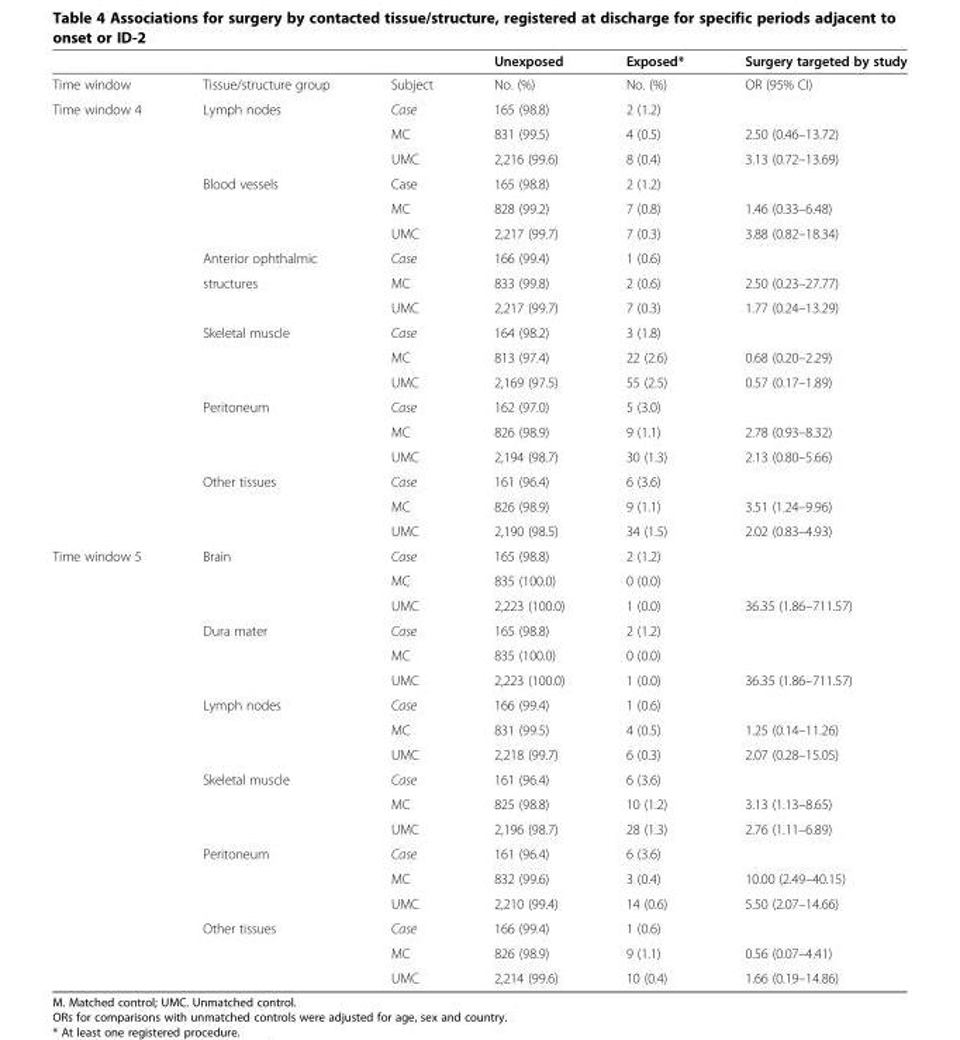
<table><thead><tr><td></td><td></td><td></td><td>Unexposed</td><td>Exposed*</td><td>Surgery targeted by study</td></tr></thead><tbody><tr><td>Time window</td><td>Tissue/structure group</td><td>Subject</td><td>No. (%)</td><td>No. (%)</td><td>OR (95% CI)</td></tr><tr><td rowspan="18">Time window 4</td><td>Lymph nodes</td><td>Case</td><td>165 (98.8)</td><td>2 (1.2)</td><td></td></tr><tr><td></td><td>MC</td><td>831 (99.5)</td><td>4 (0.5)</td><td>2.50 (0.46–13.72)</td></tr><tr><td></td><td>UMC</td><td>2,216 (99.6)</td><td>8 (0.4)</td><td>3.13 (0.72–13.69)</td></tr><tr><td>Blood vessels</td><td>Case</td><td>165 (98.8)</td><td>2 (1.2)</td><td></td></tr><tr><td></td><td>MC</td><td>828 (99.2)</td><td>7 (0.8)</td><td>1.46 (0.33–6.48)</td></tr><tr><td></td><td>UMC</td><td>2,217 (99.7)</td><td>7 (0.3)</td><td>3.88 (0.82–18.34)</td></tr><tr><td>Anterior ophthalmic</td><td>Case</td><td>166 (99.4)</td><td>1 (0.6)</td><td></td></tr><tr><td>structures</td><td>MC</td><td>833 (99.8)</td><td>2 (0.6)</td><td>2.50 (0.23–27.77)</td></tr><tr><td></td><td>UMC</td><td>2,217 (99.7)</td><td>7 (0.3)</td><td>1.77 (0.24–13.29)</td></tr><tr><td>Skeletal muscle</td><td>Case</td><td>164 (98.2)</td><td>3 (1.8)</td><td></td></tr><tr><td></td><td>MC</td><td>813 (97.4)</td><td>22 (2.6)</td><td>0.68 (0.20–2.29)</td></tr><tr><td></td><td>UMC</td><td>2,169 (97.5)</td><td>55 (2.5)</td><td>0.57 (0.17–1.89)</td></tr><tr><td>Peritoneum</td><td>Case</td><td>162 (97.0)</td><td>5 (3.0)</td><td></td></tr><tr><td></td><td>MC</td><td>826 (98.9)</td><td>9 (1.1)</td><td>2.78 (0.93–8.32)</td></tr><tr><td></td><td>UMC</td><td>2,194 (98.7)</td><td>30 (1.3)</td><td>2.13 (0.80–5.66)</td></tr><tr><td>Other tissues</td><td>Case</td><td>161 (96.4)</td><td>6 (3.6)</td><td></td></tr><tr><td></td><td>MC</td><td>826 (98.9)</td><td>9 (1.1)</td><td>3.51 (1.24–9.96)</td></tr><tr><td></td><td>UMC</td><td>2,190 (98.5)</td><td>34 (1.5)</td><td>2.02 (0.83–4.93)</td></tr><tr><td rowspan="18">Time window 5</td><td>Brain</td><td>Case</td><td>165 (98.8)</td><td>2 (1.2)</td><td></td></tr><tr><td></td><td>MC</td><td>835 (100.0)</td><td>0 (0.0)</td><td></td></tr><tr><td></td><td>UMC</td><td>2,223 (100.0)</td><td>1 (0.0)</td><td>36.35 (1.86–711.57)</td></tr><tr><td>Dura mater</td><td>Case</td><td>165 (98.8)</td><td>2 (1.2)</td><td></td></tr><tr><td></td><td>MC</td><td>835 (100.0)</td><td>0 (0.0)</td><td></td></tr><tr><td></td><td>UMC</td><td>2,223 (100.0)</td><td>1 (0.0)</td><td>36.35 (1.86–711.57)</td></tr><tr><td>Lymph nodes</td><td>Case</td><td>166 (99.4)</td><td>1 (0.6)</td><td></td></tr><tr><td></td><td>MC</td><td>831 (99.5)</td><td>4 (0.5)</td><td>1.25 (0.14–11.26)</td></tr><tr><td></td><td>UMC</td><td>2,218 (99.7)</td><td>6 (0.3)</td><td>2.07 (0.28–15.05)</td></tr><tr><td>Skeletal muscle</td><td>Case</td><td>161 (96.4)</td><td>6 (3.6)</td><td></td></tr><tr><td></td><td>MC</td><td>825 (98.8)</td><td>10 (1.2)</td><td>3.13 (1.13–8.65)</td></tr><tr><td></td><td>UMC</td><td>2,196 (98.7)</td><td>28 (1.3)</td><td>2.76 (1.11–6.89)</td></tr><tr><td>Peritoneum</td><td>Case</td><td>161 (96.4)</td><td>6 (3.6)</td><td></td></tr><tr><td></td><td>MC</td><td>832 (99.6)</td><td>3 (0.4)</td><td>10.00 (2.49–40.15)</td></tr><tr><td></td><td>UMC</td><td>2,210 (99.4)</td><td>14 (0.6)</td><td>5.50 (2.07–14.66)</td></tr><tr><td>Other tissues</td><td>Case</td><td>166 (99.4)</td><td>1 (0.6)</td><td></td></tr><tr><td></td><td>MC</td><td>826 (98.9)</td><td>9 (1.1)</td><td>0.56 (0.07–4.41)</td></tr><tr><td></td><td>UMC</td><td>2,214 (99.6)</td><td>10 (0.4)</td><td>1.66 (0.19–14.86)</td></tr></tbody></table>